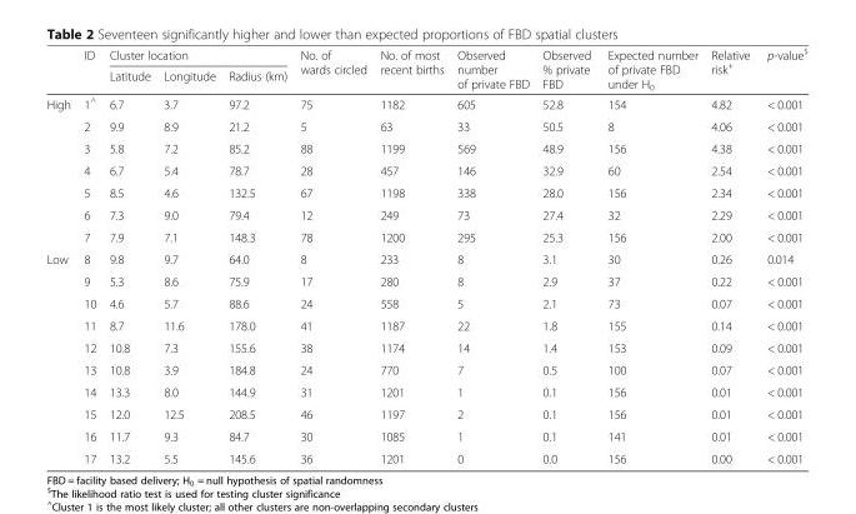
<table><thead><tr><td rowspan="2"></td><td rowspan="2">ID</td><td colspan="3">Cluster location</td><td rowspan="2">No. of wards circled</td><td rowspan="2">No. of most recent births</td><td rowspan="2">Observed number of private FBD</td><td rowspan="2">Observed % private FBD</td><td rowspan="2">Expected number of private FBD under H<sub>0</sub></td><td rowspan="2">Relative risk<sup>+</sup></td><td rowspan="2">p-value<sup>$</sup></td></tr><tr><td>Latitude</td><td>Longitude</td><td>Radius (km)</td></tr></thead><tbody><tr><td rowspan="7">High</td><td>1<sup>^</sup></td><td>6.7</td><td>3.7</td><td>97.2</td><td>75</td><td>1182</td><td>605</td><td>52.8</td><td>154</td><td>4.82</td><td>&lt; 0.001</td></tr><tr><td>2</td><td>9.9</td><td>8.9</td><td>21.2</td><td>5</td><td>63</td><td>33</td><td>50.5</td><td>8</td><td>4.06</td><td>&lt; 0.001</td></tr><tr><td>3</td><td>5.8</td><td>7.2</td><td>85.2</td><td>88</td><td>1199</td><td>569</td><td>48.9</td><td>156</td><td>4.38</td><td>&lt; 0.001</td></tr><tr><td>4</td><td>6.7</td><td>5.4</td><td>78.7</td><td>28</td><td>457</td><td>146</td><td>32.9</td><td>60</td><td>2.54</td><td>&lt; 0.001</td></tr><tr><td>5</td><td>8.5</td><td>4.6</td><td>132.5</td><td>67</td><td>1198</td><td>338</td><td>28.0</td><td>156</td><td>2.34</td><td>&lt; 0.001</td></tr><tr><td>6</td><td>7.3</td><td>9.0</td><td>79.4</td><td>12</td><td>249</td><td>73</td><td>27.4</td><td>32</td><td>2.29</td><td>&lt; 0.001</td></tr><tr><td>7</td><td>7.9</td><td>7.1</td><td>148.3</td><td>78</td><td>1200</td><td>295</td><td>25.3</td><td>156</td><td>2.00</td><td>&lt; 0.001</td></tr><tr><td rowspan="10">Low</td><td>8</td><td>9.8</td><td>9.7</td><td>64.0</td><td>8</td><td>233</td><td>8</td><td>3.1</td><td>30</td><td>0.26</td><td>0.014</td></tr><tr><td>9</td><td>5.3</td><td>8.6</td><td>75.9</td><td>17</td><td>280</td><td>8</td><td>2.9</td><td>37</td><td>0.22</td><td>&lt; 0.001</td></tr><tr><td>10</td><td>4.6</td><td>5.7</td><td>88.6</td><td>24</td><td>558</td><td>5</td><td>2.1</td><td>73</td><td>0.07</td><td>&lt; 0.001</td></tr><tr><td>11</td><td>8.7</td><td>11.6</td><td>178.0</td><td>41</td><td>1187</td><td>22</td><td>1.8</td><td>155</td><td>0.14</td><td>&lt; 0.001</td></tr><tr><td>12</td><td>10.8</td><td>7.3</td><td>155.6</td><td>38</td><td>1174</td><td>14</td><td>1.4</td><td>153</td><td>0.09</td><td>&lt; 0.001</td></tr><tr><td>13</td><td>10.8</td><td>3.9</td><td>184.8</td><td>24</td><td>770</td><td>7</td><td>0.5</td><td>100</td><td>0.07</td><td>&lt; 0.001</td></tr><tr><td>14</td><td>13.3</td><td>8.0</td><td>144.9</td><td>31</td><td>1201</td><td>1</td><td>0.1</td><td>156</td><td>0.01</td><td>&lt; 0.001</td></tr><tr><td>15</td><td>12.0</td><td>12.5</td><td>208.5</td><td>46</td><td>1197</td><td>2</td><td>0.1</td><td>156</td><td>0.01</td><td>&lt; 0.001</td></tr><tr><td>16</td><td>11.7</td><td>9.3</td><td>84.7</td><td>30</td><td>1085</td><td>1</td><td>0.1</td><td>141</td><td>0.01</td><td>&lt; 0.001</td></tr><tr><td>17</td><td>13.2</td><td>5.5</td><td>145.6</td><td>36</td><td>1201</td><td>0</td><td>0.0</td><td>156</td><td>0.00</td><td>&lt; 0.001</td></tr></tbody></table>